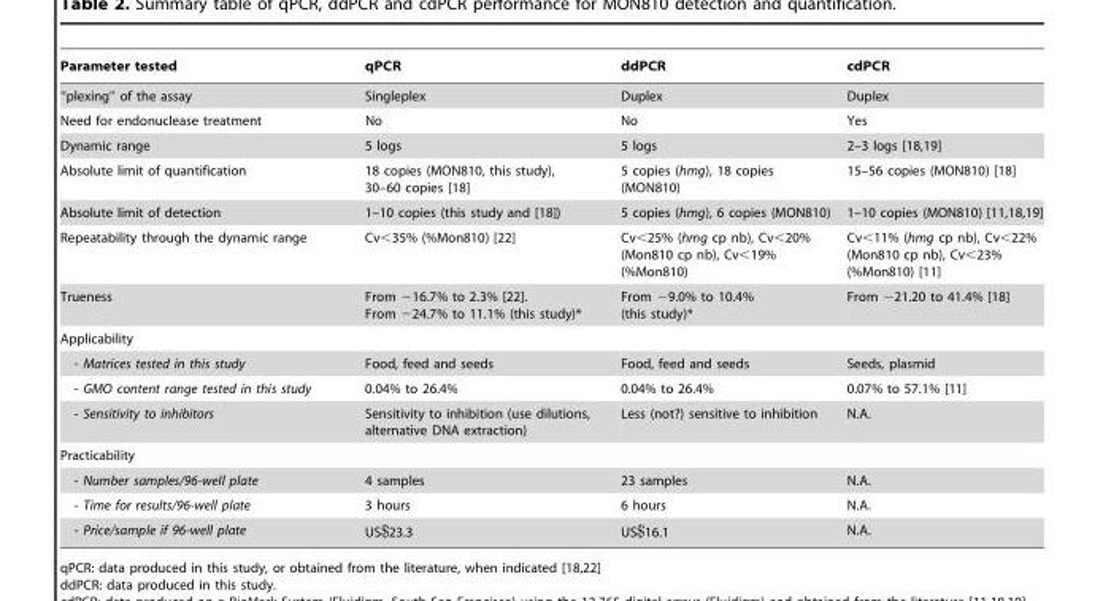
<table><thead><tr><td>Parameter tested</td><td>qPCR</td><td>ddPCR</td><td>cdPCR</td></tr></thead><tbody><tr><td>‘‘plexing’’ of the assay</td><td>Singleplex</td><td>Duplex</td><td>Duplex</td></tr><tr><td>Need for endonuclease treatment</td><td>No</td><td>No</td><td>Yes</td></tr><tr><td>Dynamic range</td><td>5 logs</td><td>5 logs</td><td>2–3 logs [18,19]</td></tr><tr><td>Absolute limit of quantification</td><td>18 copies (MON810, this study), 30–60 copies [18]</td><td>5 copies (hmg), 18 copies (MON810)</td><td>15–56 copies (MON810) [18]</td></tr><tr><td>Absolute limit of detection</td><td>1–10 copies (this study and [18])</td><td>5 copies (hmg), 6 copies (MON810)</td><td>1–10 copies (MON810) [11,18,19]</td></tr><tr><td>Repeatability through the dynamic range</td><td>Cv&lt;35% (%Mon810) [22]</td><td>Cv&lt;25% (hmg cp nb), Cv&lt;20% (Mon810 cp nb), Cv&lt;19% (%Mon810)</td><td>Cv&lt;11% (hmg cp nb), Cv&lt;22% (Mon810 cp nb), Cv&lt;23% (%Mon810) [11]</td></tr><tr><td>Trueness</td><td>From −16.7% to 2.3% [22]. From −24.7% to 11.1% (this study)*</td><td>From −9.0% to 10.4% (this study)*</td><td>From −21.20 to 41.4% [18]</td></tr><tr><td colspan="4">Applicability</td></tr><tr><td>- Matrices tested in this study</td><td>Food, feed and seeds</td><td>Food, feed and seeds</td><td>Seeds, plasmid</td></tr><tr><td>- GMO content range tested in this study</td><td>0.04% to 26.4%</td><td>0.04% to 26.4%</td><td>0.07% to 57.1% [11]</td></tr><tr><td>- Sensitivity to inhibitors</td><td>Sensitivity to inhibition (use dilutions, alternative DNA extraction)</td><td>Less (not?) sensitive to inhibition</td><td>N.A.</td></tr><tr><td colspan="4">Practicability</td></tr><tr><td>- Number samples/96-well plate</td><td>4 samples</td><td>23 samples</td><td>N.A.</td></tr><tr><td>- Time for results/96-well plate</td><td>3 hours</td><td>6 hours</td><td>N.A.</td></tr><tr><td>- Price/sample if 96-well plate</td><td>US$23.3</td><td>US$16.1</td><td>N.A.</td></tr></tbody></table>